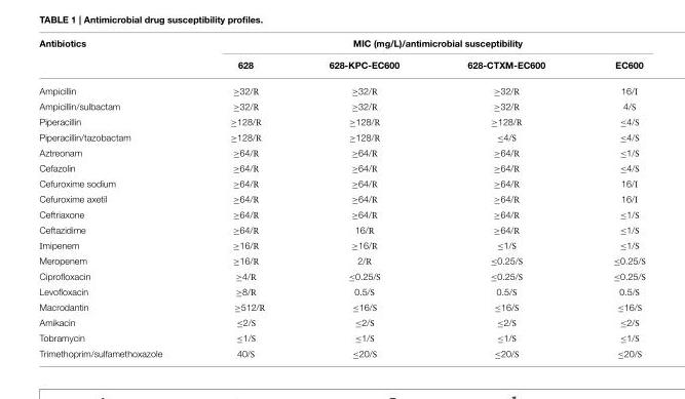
<table><thead><tr><td rowspan="2">Antibiotics</td><td colspan="4">MIC (mg/L)/antimicrobial susceptibility</td></tr><tr><td>628</td><td>628-KPC-EC600</td><td>628-CTXM-EC600</td><td>EC600</td></tr></thead><tbody><tr><td>Ampicillin</td><td>≥32/R</td><td>≥32/R</td><td>≥32/R</td><td>16/I</td></tr><tr><td>Ampicillin/sulbactam</td><td>≥32/R</td><td>≥32/R</td><td>≥32/R</td><td>4/S</td></tr><tr><td>Piperacillin</td><td>≥128/R</td><td>≥128/R</td><td>≥128/R</td><td>≤4/S</td></tr><tr><td>Piperacillin/tazobactam</td><td>≥128/R</td><td>≥128/R</td><td>≤4/S</td><td>≤4/S</td></tr><tr><td>Aztreonam</td><td>≥64/R</td><td>≥64/R</td><td>≥64/R</td><td>≤1/S</td></tr><tr><td>Cefazolin</td><td>≥64/R</td><td>≥64/R</td><td>≥64/R</td><td>≤4/S</td></tr><tr><td>Cefuroxime sodium</td><td>≥64/R</td><td>≥64/R</td><td>≥64/R</td><td>16/I</td></tr><tr><td>Cefuroxime axetil</td><td>≥64/R</td><td>≥64/R</td><td>≥64/R</td><td>16/I</td></tr><tr><td>Ceftriaxone</td><td>≥64/R</td><td>≥64/R</td><td>≥64/R</td><td>≤1/S</td></tr><tr><td>Ceftazidime</td><td>≥64/R</td><td>16/R</td><td>≥64/R</td><td>≤1/S</td></tr><tr><td>Imipenem</td><td>≥16/R</td><td>≥16/R</td><td>≤1/S</td><td>≤1/S</td></tr><tr><td>Meropenem</td><td>≥16/R</td><td>2/R</td><td>≤0.25/S</td><td>≤0.25/S</td></tr><tr><td>Ciprofloxacin</td><td>≥4/R</td><td>≤0.25/S</td><td>≤0.25/S</td><td>≤0.25/S</td></tr><tr><td>Levofloxacin</td><td>≥8/R</td><td>0.5/S</td><td>0.5/S</td><td>0.5/S</td></tr><tr><td>Macrodantin</td><td>≥512/R</td><td>≤16/S</td><td>≤16/S</td><td>≤16/S</td></tr><tr><td>Amikacin</td><td>≤2/S</td><td>≤2/S</td><td>≤2/S</td><td>≤2/S</td></tr><tr><td>Tobramycin</td><td>≤1/S</td><td>≤1/S</td><td>≤1/S</td><td>≤1/S</td></tr><tr><td>Trimethoprim/sulfamethoxazole</td><td>40/S</td><td>≤20/S</td><td>≤20/S</td><td>≤20/S</td></tr></tbody></table>